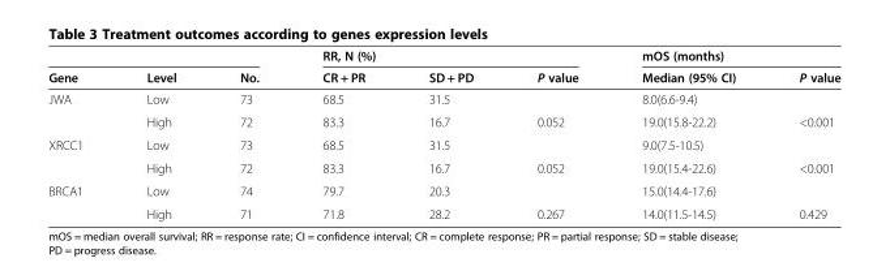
<table><thead><tr><td rowspan="2">Gene</td><td rowspan="2">Level</td><td rowspan="2">No.</td><td colspan="3">RR, N (%)</td><td colspan="2">mOS (months)</td></tr><tr><td>CR + PR</td><td>SD + PD</td><td>P value</td><td>Median (95% CI)</td><td>P value</td></tr></thead><tbody><tr><td rowspan="2">JWA</td><td>Low</td><td>73</td><td>68.5</td><td>31.5</td><td></td><td>8.0(6.6-9.4)</td><td></td></tr><tr><td>High</td><td>72</td><td>83.3</td><td>16.7</td><td>0.052</td><td>19.0(15.8-22.2)</td><td>&lt;0.001</td></tr><tr><td rowspan="2">XRCC1</td><td>Low</td><td>73</td><td>68.5</td><td>31.5</td><td></td><td>9.0(7.5-10.5)</td><td></td></tr><tr><td>High</td><td>72</td><td>83.3</td><td>16.7</td><td>0.052</td><td>19.0(15.4-22.6)</td><td>&lt;0.001</td></tr><tr><td rowspan="2">BRCA1</td><td>Low</td><td>74</td><td>79.7</td><td>20.3</td><td></td><td>15.0(14.4-17.6)</td><td></td></tr><tr><td>High</td><td>71</td><td>71.8</td><td>28.2</td><td>0.267</td><td>14.0(11.5-14.5)</td><td>0.429</td></tr></tbody></table>